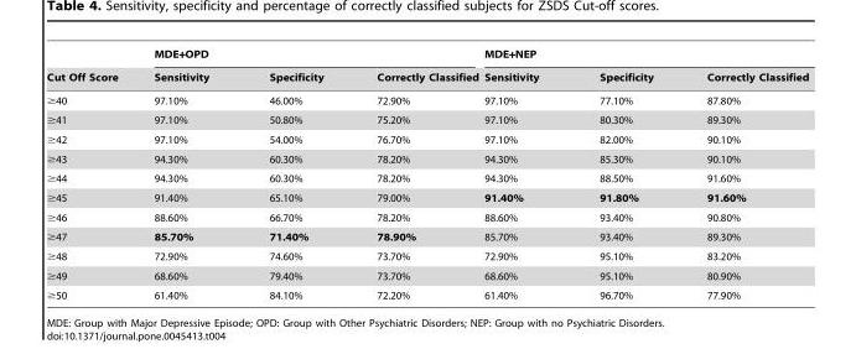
<table><thead><tr><td rowspan="2">Cut Off Score</td><td colspan="3">MDE+OPD</td><td colspan="3">MDE+NEP</td></tr><tr><td>Sensitivity</td><td>Specificity</td><td>Correctly Classified</td><td>Sensitivity</td><td>Specificity</td><td>Correctly Classified</td></tr></thead><tbody><tr><td>≥40</td><td>97.10%</td><td>46.00%</td><td>72.90%</td><td>97.10%</td><td>77.10%</td><td>87.80%</td></tr><tr><td>≥41</td><td>97.10%</td><td>50.80%</td><td>75.20%</td><td>97.10%</td><td>80.30%</td><td>89.30%</td></tr><tr><td>≥42</td><td>97.10%</td><td>54.00%</td><td>76.70%</td><td>97.10%</td><td>82.00%</td><td>90.10%</td></tr><tr><td>≥43</td><td>94.30%</td><td>60.30%</td><td>78.20%</td><td>94.30%</td><td>85.30%</td><td>90.10%</td></tr><tr><td>≥44</td><td>94.30%</td><td>60.30%</td><td>78.20%</td><td>94.30%</td><td>88.50%</td><td>91.60%</td></tr><tr><td>≥45</td><td>91.40%</td><td>65.10%</td><td>79.00%</td><td>91.40%</td><td>91.80%</td><td>91.60%</td></tr><tr><td>≥46</td><td>88.60%</td><td>66.70%</td><td>78.20%</td><td>88.60%</td><td>93.40%</td><td>90.80%</td></tr><tr><td>≥47</td><td>85.70%</td><td>71.40%</td><td>78.90%</td><td>85.70%</td><td>93.40%</td><td>89.30%</td></tr><tr><td>≥48</td><td>72.90%</td><td>74.60%</td><td>73.70%</td><td>72.90%</td><td>95.10%</td><td>83.20%</td></tr><tr><td>≥49</td><td>68.60%</td><td>79.40%</td><td>73.70%</td><td>68.60%</td><td>95.10%</td><td>80.90%</td></tr><tr><td>≥50</td><td>61.40%</td><td>84.10%</td><td>72.20%</td><td>61.40%</td><td>96.70%</td><td>77.90%</td></tr></tbody></table>